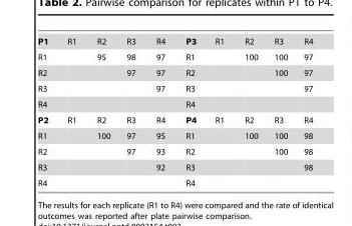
<table><tbody><tr><td>P1</td><td>R1</td><td>R2</td><td>R3</td><td>R4</td><td>P3</td><td>R1</td><td>R2</td><td>R3</td><td>R4</td></tr><tr><td>R1</td><td></td><td>95</td><td>98</td><td>97</td><td>R1</td><td></td><td>100</td><td>100</td><td>97</td></tr><tr><td>R2</td><td></td><td></td><td>97</td><td>97</td><td>R2</td><td></td><td></td><td>100</td><td>97</td></tr><tr><td>R3</td><td></td><td></td><td></td><td>97</td><td>R3</td><td></td><td></td><td></td><td>97</td></tr><tr><td>R4</td><td></td><td></td><td></td><td></td><td>R4</td><td></td><td></td><td></td><td></td></tr><tr><td>P2</td><td>R1</td><td>R2</td><td>R3</td><td>R4</td><td>P4</td><td>R1</td><td>R2</td><td>R3</td><td>R4</td></tr><tr><td>R1</td><td></td><td>100</td><td>97</td><td>95</td><td>R1</td><td></td><td>100</td><td>100</td><td>98</td></tr><tr><td>R2</td><td></td><td></td><td>97</td><td>93</td><td>R2</td><td></td><td></td><td>100</td><td>98</td></tr><tr><td>R3</td><td></td><td></td><td></td><td>92</td><td>R3</td><td></td><td></td><td></td><td>98</td></tr><tr><td>R4</td><td></td><td></td><td></td><td></td><td>R4</td><td></td><td></td><td></td><td></td></tr></tbody></table>